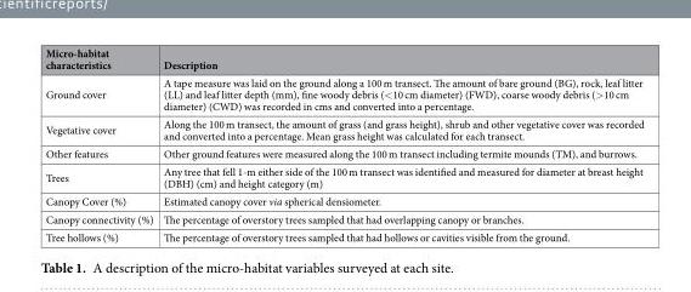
<table><thead><tr><td>Micro-habitat characteristics</td><td>Description</td></tr></thead><tbody><tr><td>Ground cover</td><td>A tape measure was laid on the ground along a 100 m transect. The amount of bare ground (BG), rock, leaf litter (LL) and leaf litter depth (mm), fine woody debris (&lt;10 cm diameter) (FWD), coarse woody debris (&gt;10 cm diameter) (CWD) was recorded in cms and converted into a percentage.</td></tr><tr><td>Vegetative cover</td><td>Along the 100 m transect, the amount of grass (and grass height), shrub and other vegetative cover was recorded and converted into a percentage. Mean grass height was calculated for each transect.</td></tr><tr><td>Other features</td><td>Other ground features were measured along the 100 m transect including termite mounds (TM), and burrows.</td></tr><tr><td>Trees</td><td>Any tree that fell 1-m either side of the 100 m transect was identified and measured for diameter at breast height (DBH) (cm) and height category (m)</td></tr><tr><td>Canopy Cover (%)</td><td>Estimated canopy cover via spherical densiometer.</td></tr><tr><td>Canopy connectivity (%)</td><td>The percentage of overstory trees sampled that had overlapping canopy or branches.</td></tr><tr><td>Tree hollows (%)</td><td>The percentage of overstory trees sampled that had hollows or cavities visible from the ground.</td></tr></tbody></table>